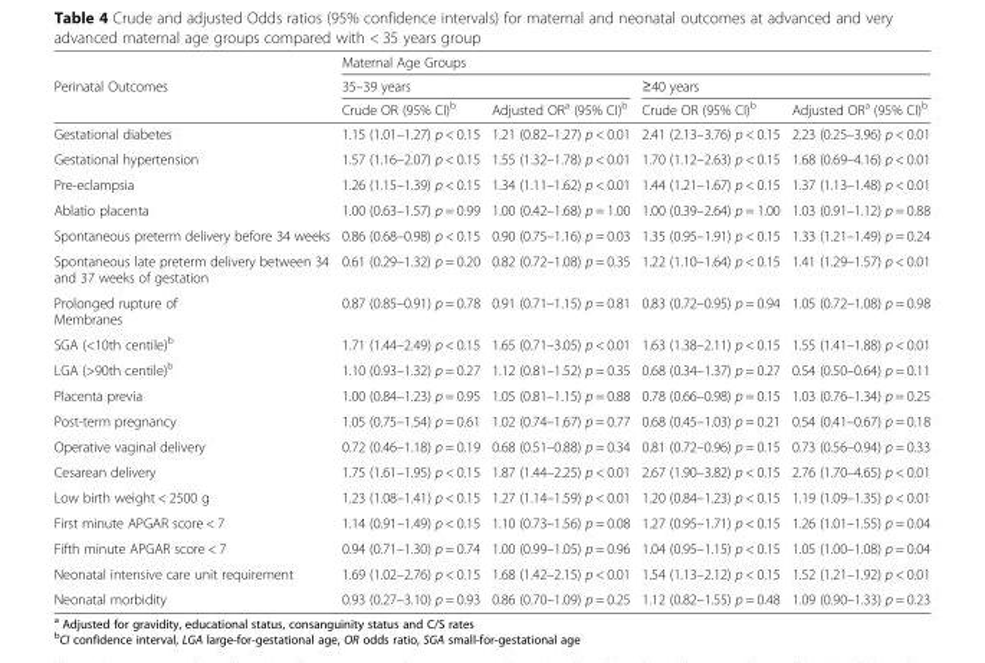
<table><thead><tr><td rowspan="3">Perinatal Outcomes</td><td colspan="4">Maternal Age Groups</td></tr><tr><td colspan="2">35–39 years</td><td colspan="2">≥40 years</td></tr><tr><td>Crude OR (95% CI)<sup>b</sup></td><td>Adjusted OR<sup>a</sup> (95% CI)<sup>b</sup></td><td>Crude OR (95% CI)<sup>b</sup></td><td>Adjusted OR<sup>a</sup> (95% CI)<sup>b</sup></td></tr></thead><tbody><tr><td>Gestational diabetes</td><td>1.15 (1.01–1.27) p &lt; 0.15</td><td>1.21 (0.82–1.27) p &lt; 0.01</td><td>2.41 (2.13–3.76) p &lt; 0.15</td><td>2.23 (0.25–3.96) p &lt; 0.01</td></tr><tr><td>Gestational hypertension</td><td>1.57 (1.16–2.07) p &lt; 0.15</td><td>1.55 (1.32–1.78) p &lt; 0.01</td><td>1.70 (1.12–2.63) p &lt; 0.15</td><td>1.68 (0.69–4.16) p &lt; 0.01</td></tr><tr><td>Pre-eclampsia</td><td>1.26 (1.15–1.39) p &lt; 0.15</td><td>1.34 (1.11–1.62) p &lt; 0.01</td><td>1.44 (1.21–1.67) p &lt; 0.15</td><td>1.37 (1.13–1.48) p &lt; 0.01</td></tr><tr><td>Ablatio placenta</td><td>1.00 (0.63–1.57) p = 0.99</td><td>1.00 (0.42–1.68) p = 1.00</td><td>1.00 (0.39–2.64) p = 1.00</td><td>1.03 (0.91–1.12) p = 0.88</td></tr><tr><td>Spontaneous preterm delivery before 34 weeks</td><td>0.86 (0.68–0.98) p &lt; 0.15</td><td>0.90 (0.75–1.16) p = 0.03</td><td>1.35 (0.95–1.91) p &lt; 0.15</td><td>1.33 (1.21–1.49) p = 0.24</td></tr><tr><td>Spontaneous late preterm delivery between 34 and 37 weeks of gestation</td><td>0.61 (0.29–1.32) p = 0.20</td><td>0.82 (0.72–1.08) p = 0.35</td><td>1.22 (1.10–1.64) p &lt; 0.15</td><td>1.41 (1.29–1.57) p &lt; 0.01</td></tr><tr><td>Prolonged rupture of Membranes</td><td>0.87 (0.85–0.91) p = 0.78</td><td>0.91 (0.71–1.15) p = 0.81</td><td>0.83 (0.72–0.95) p = 0.94</td><td>1.05 (0.72–1.08) p = 0.98</td></tr><tr><td>SGA (&lt;10th centile)<sup>b</sup></td><td>1.71 (1.44–2.49) p &lt; 0.15</td><td>1.65 (0.71–3.05) p &lt; 0.01</td><td>1.63 (1.38–2.11) p &lt; 0.15</td><td>1.55 (1.41–1.88) p &lt; 0.01</td></tr><tr><td>LGA (&gt;90th centile)<sup>b</sup></td><td>1.10 (0.93–1.32) p = 0.27</td><td>1.12 (0.81–1.52) p = 0.35</td><td>0.68 (0.34–1.37) p = 0.27</td><td>0.54 (0.50–0.64) p = 0.11</td></tr><tr><td>Placenta previa</td><td>1.00 (0.84–1.23) p = 0.95</td><td>1.05 (0.81–1.15) p = 0.88</td><td>0.78 (0.66–0.98) p = 0.15</td><td>1.03 (0.76–1.34) p = 0.25</td></tr><tr><td>Post-term pregnancy</td><td>1.05 (0.75–1.54) p = 0.61</td><td>1.02 (0.74–1.67) p = 0.77</td><td>0.68 (0.45–1.03) p = 0.21</td><td>0.54 (0.41–0.67) p = 0.18</td></tr><tr><td>Operative vaginal delivery</td><td>0.72 (0.46–1.18) p = 0.19</td><td>0.68 (0.51–0.88) p = 0.34</td><td>0.81 (0.72–0.96) p = 0.15</td><td>0.73 (0.56–0.94) p = 0.33</td></tr><tr><td>Cesarean delivery</td><td>1.75 (1.61–1.95) p &lt; 0.15</td><td>1.87 (1.44–2.25) p &lt; 0.01</td><td>2.67 (1.90–3.82) p &lt; 0.15</td><td>2.76 (1.70–4.65) p &lt; 0.01</td></tr><tr><td>Low birth weight &lt; 2500 g</td><td>1.23 (1.08–1.41) p &lt; 0.15</td><td>1.27 (1.14–1.59) p &lt; 0.01</td><td>1.20 (0.84–1.23) p &lt; 0.15</td><td>1.19 (1.09–1.35) p &lt; 0.01</td></tr><tr><td>First minute APGAR score &lt; 7</td><td>1.14 (0.91–1.49) p &lt; 0.15</td><td>1.10 (0.73–1.56) p = 0.08</td><td>1.27 (0.95–1.71) p &lt; 0.15</td><td>1.26 (1.01–1.55) p = 0.04</td></tr><tr><td>Fifth minute APGAR score &lt; 7</td><td>0.94 (0.71–1.30) p = 0.74</td><td>1.00 (0.99–1.05) p = 0.96</td><td>1.04 (0.95–1.15) p &lt; 0.15</td><td>1.05 (1.00–1.08) p = 0.04</td></tr><tr><td>Neonatal intensive care unit requirement</td><td>1.69 (1.02–2.76) p &lt; 0.15</td><td>1.68 (1.42–2.15) p &lt; 0.01</td><td>1.54 (1.13–2.12) p &lt; 0.15</td><td>1.52 (1.21–1.92) p &lt; 0.01</td></tr><tr><td>Neonatal morbidity</td><td>0.93 (0.27–3.10) p = 0.93</td><td>0.86 (0.70–1.09) p = 0.25</td><td>1.12 (0.82–1.55) p = 0.48</td><td>1.09 (0.90–1.33) p = 0.23</td></tr></tbody></table>